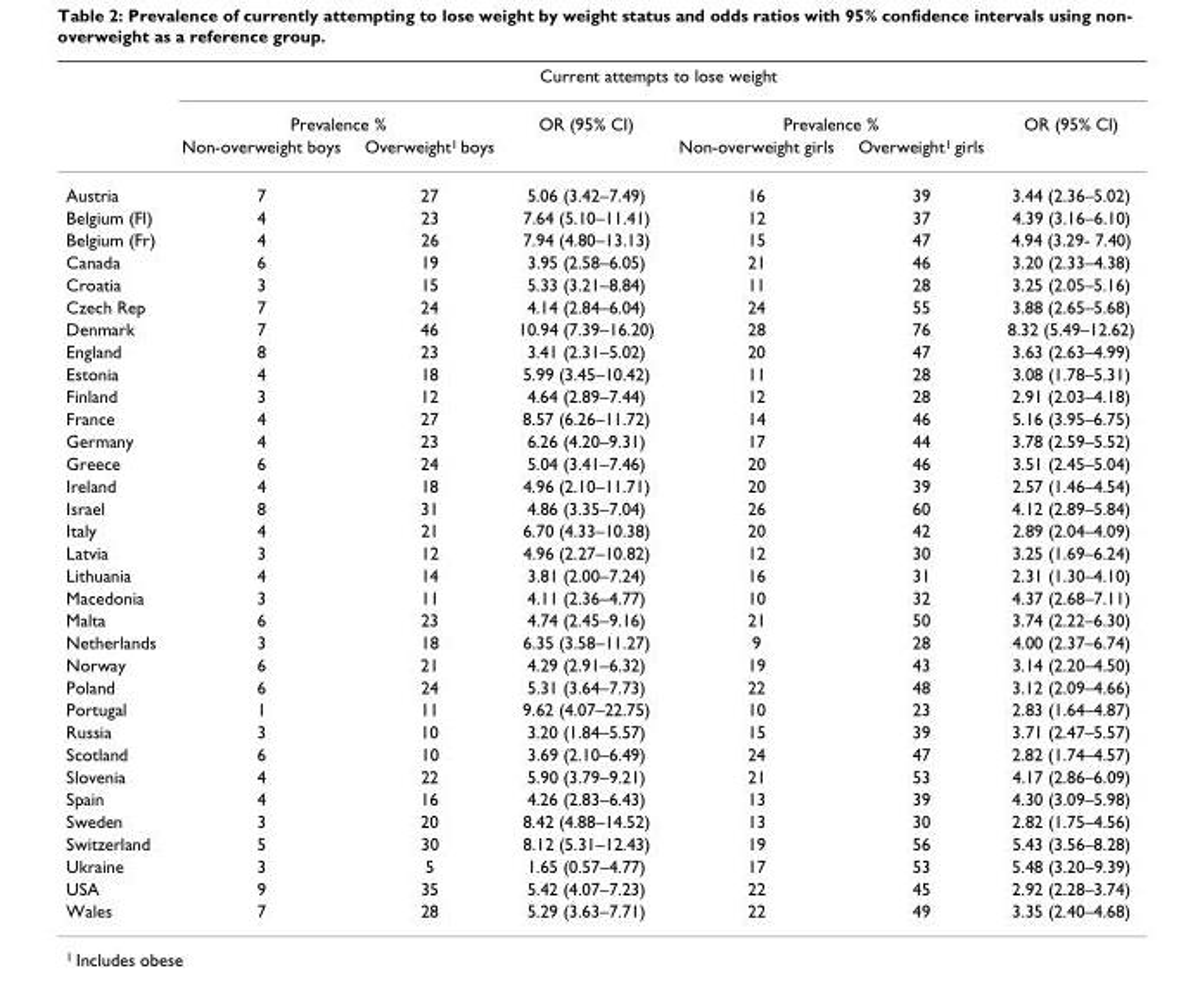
<table><thead><tr><td rowspan="3"></td><td colspan="6">Current attempts to lose weight</td></tr><tr><td colspan="2">Prevalence %</td><td rowspan="2">OR (95% CI)</td><td colspan="2">Prevalence %</td><td rowspan="2">OR (95% CI)</td></tr><tr><td>Non-overweight boys</td><td>Overweight<sup>1</sup> boys</td><td>Non-overweight girls</td><td>Overweight<sup>1</sup> girls</td></tr></thead><tbody><tr><td>Austria</td><td>7</td><td>27</td><td>5.06 (3.42–7.49)</td><td>16</td><td>39</td><td>3.44 (2.36–5.02)</td></tr><tr><td>Belgium (Fl)</td><td>4</td><td>23</td><td>7.64 (5.10–11.41)</td><td>12</td><td>37</td><td>4.39 (3.16–6.10)</td></tr><tr><td>Belgium (Fr)</td><td>4</td><td>26</td><td>7.94 (4.80–13.13)</td><td>15</td><td>47</td><td>4.94 (3.29- 7.40)</td></tr><tr><td>Canada</td><td>6</td><td>19</td><td>3.95 (2.58–6.05)</td><td>21</td><td>46</td><td>3.20 (2.33–4.38)</td></tr><tr><td>Croatia</td><td>3</td><td>15</td><td>5.33 (3.21–8.84)</td><td>11</td><td>28</td><td>3.25 (2.05–5.16)</td></tr><tr><td>Czech Rep</td><td>7</td><td>24</td><td>4.14 (2.84–6.04)</td><td>24</td><td>55</td><td>3.88 (2.65–5.68)</td></tr><tr><td>Denmark</td><td>7</td><td>46</td><td>10.94 (7.39–16.20)</td><td>28</td><td>76</td><td>8.32 (5.49–12.62)</td></tr><tr><td>England</td><td>8</td><td>23</td><td>3.41 (2.31–5.02)</td><td>20</td><td>47</td><td>3.63 (2.63–4.99)</td></tr><tr><td>Estonia</td><td>4</td><td>18</td><td>5.99 (3.45–10.42)</td><td>11</td><td>28</td><td>3.08 (1.78–5.31)</td></tr><tr><td>Finland</td><td>3</td><td>12</td><td>4.64 (2.89–7.44)</td><td>12</td><td>28</td><td>2.91 (2.03–4.18)</td></tr><tr><td>France</td><td>4</td><td>27</td><td>8.57 (6.26–11.72)</td><td>14</td><td>46</td><td>5.16 (3.95–6.75)</td></tr><tr><td>Germany</td><td>4</td><td>23</td><td>6.26 (4.20–9.31)</td><td>17</td><td>44</td><td>3.78 (2.59–5.52)</td></tr><tr><td>Greece</td><td>6</td><td>24</td><td>5.04 (3.41–7.46)</td><td>20</td><td>46</td><td>3.51 (2.45–5.04)</td></tr><tr><td>Ireland</td><td>4</td><td>18</td><td>4.96 (2.10–11.71)</td><td>20</td><td>39</td><td>2.57 (1.46–4.54)</td></tr><tr><td>Israel</td><td>8</td><td>31</td><td>4.86 (3.35–7.04)</td><td>26</td><td>60</td><td>4.12 (2.89–5.84)</td></tr><tr><td>Italy</td><td>4</td><td>21</td><td>6.70 (4.33–10.38)</td><td>20</td><td>42</td><td>2.89 (2.04–4.09)</td></tr><tr><td>Latvia</td><td>3</td><td>12</td><td>4.96 (2.27–10.82)</td><td>12</td><td>30</td><td>3.25 (1.69–6.24)</td></tr><tr><td>Lithuania</td><td>4</td><td>14</td><td>3.81 (2.00–7.24)</td><td>16</td><td>31</td><td>2.31 (1.30–4.10)</td></tr><tr><td>Macedonia</td><td>3</td><td>11</td><td>4.11 (2.36–4.77)</td><td>10</td><td>32</td><td>4.37 (2.68–7.11)</td></tr><tr><td>Malta</td><td>6</td><td>23</td><td>4.74 (2.45–9.16)</td><td>21</td><td>50</td><td>3.74 (2.22–6.30)</td></tr><tr><td>Netherlands</td><td>3</td><td>18</td><td>6.35 (3.58–11.27)</td><td>9</td><td>28</td><td>4.00 (2.37–6.74)</td></tr><tr><td>Norway</td><td>6</td><td>21</td><td>4.29 (2.91–6.32)</td><td>19</td><td>43</td><td>3.14 (2.20–4.50)</td></tr><tr><td>Poland</td><td>6</td><td>24</td><td>5.31 (3.64–7.73)</td><td>22</td><td>48</td><td>3.12 (2.09–4.66)</td></tr><tr><td>Portugal</td><td>1</td><td>11</td><td>9.62 (4.07–22.75)</td><td>10</td><td>23</td><td>2.83 (1.64–4.87)</td></tr><tr><td>Russia</td><td>3</td><td>10</td><td>3.20 (1.84–5.57)</td><td>15</td><td>39</td><td>3.71 (2.47–5.57)</td></tr><tr><td>Scotland</td><td>6</td><td>10</td><td>3.69 (2.10–6.49)</td><td>24</td><td>47</td><td>2.82 (1.74–4.57)</td></tr><tr><td>Slovenia</td><td>4</td><td>22</td><td>5.90 (3.79–9.21)</td><td>21</td><td>53</td><td>4.17 (2.86–6.09)</td></tr><tr><td>Spain</td><td>4</td><td>16</td><td>4.26 (2.83–6.43)</td><td>13</td><td>39</td><td>4.30 (3.09–5.98)</td></tr><tr><td>Sweden</td><td>3</td><td>20</td><td>8.42 (4.88–14.52)</td><td>13</td><td>30</td><td>2.82 (1.75–4.56)</td></tr><tr><td>Switzerland</td><td>5</td><td>30</td><td>8.12 (5.31–12.43)</td><td>19</td><td>56</td><td>5.43 (3.56–8.28)</td></tr><tr><td>Ukraine</td><td>3</td><td>5</td><td>1.65 (0.57–4.77)</td><td>17</td><td>53</td><td>5.48 (3.20–9.39)</td></tr><tr><td>USA</td><td>9</td><td>35</td><td>5.42 (4.07–7.23)</td><td>22</td><td>45</td><td>2.92 (2.28–3.74)</td></tr><tr><td>Wales</td><td>7</td><td>28</td><td>5.29 (3.63–7.71)</td><td>22</td><td>49</td><td>3.35 (2.40–4.68)</td></tr></tbody></table>